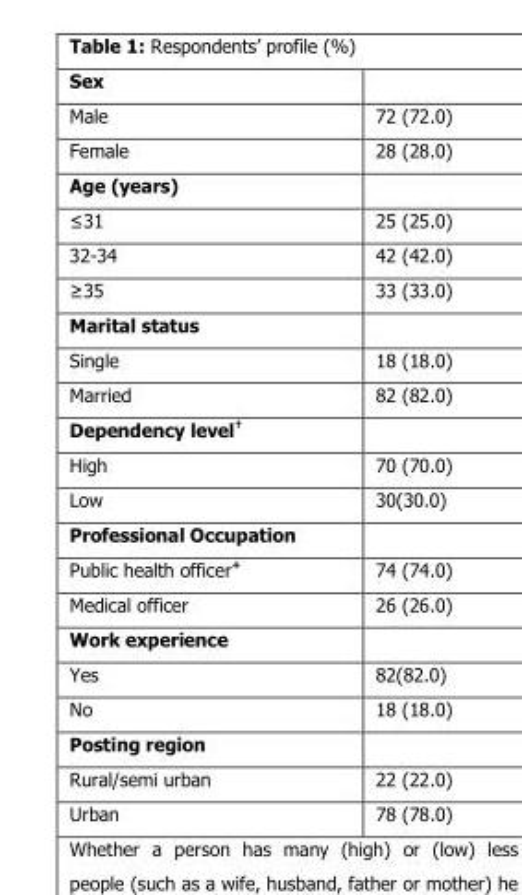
<table><tbody><tr><td colspan="2">Sex</td></tr><tr><td>Male</td><td>72 (72.0)</td></tr><tr><td>Female</td><td>28 (28.0)</td></tr><tr><td colspan="2">Age (years)</td></tr><tr><td>≤31</td><td>25 (25.0)</td></tr><tr><td>32-34</td><td>42 (42.0)</td></tr><tr><td>≥35</td><td>33 (33.0)</td></tr><tr><td colspan="2">Marital status</td></tr><tr><td>Single</td><td>18 (18.0)</td></tr><tr><td>Married</td><td>82 (82.0)</td></tr><tr><td colspan="2">Dependency level†</td></tr><tr><td>High</td><td>70 (70.0)</td></tr><tr><td>Low</td><td>30(30.0)</td></tr><tr><td colspan="2">Professional Occupation</td></tr><tr><td>Public health officer<sup>+</sup></td><td>74 (74.0)</td></tr><tr><td>Medical officer</td><td>26 (26.0)</td></tr><tr><td colspan="2">Work experience</td></tr><tr><td>Yes</td><td>82(82.0)</td></tr><tr><td>No</td><td>18 (18.0)</td></tr><tr><td colspan="2">Posting region</td></tr><tr><td>Rural/semi urban</td><td>22 (22.0)</td></tr><tr><td>Urban</td><td>78 (78.0)</td></tr></tbody></table>